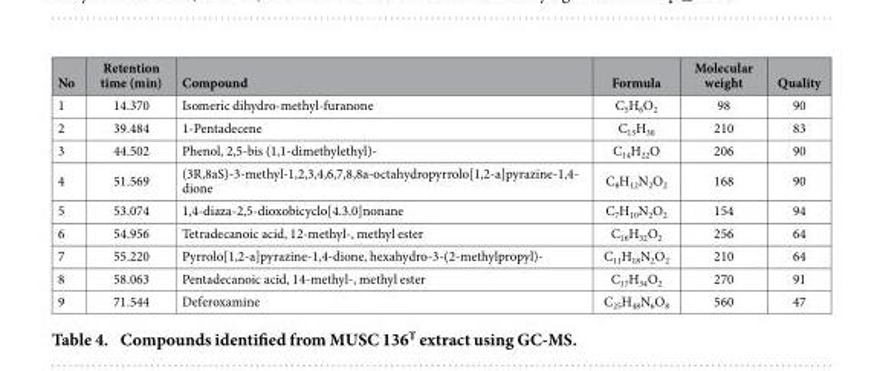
<table><thead><tr><td>No</td><td>Retention time (min)</td><td>Compound</td><td>Formula</td><td>Molecular weight</td><td>Quality</td></tr></thead><tbody><tr><td>1</td><td>14.370</td><td>Isomeric dihydro-methyl-furanone</td><td>C<sub>5</sub>H<sub>6</sub>O<sub>2</sub></td><td>98</td><td>90</td></tr><tr><td>2</td><td>39.484</td><td>1-Pentadecene</td><td>C<sub>15</sub>H<sub>30</sub></td><td>210</td><td>83</td></tr><tr><td>3</td><td>44.502</td><td>Phenol, 2,5-bis (1,1-dimethylethyl)-</td><td>C<sub>14</sub>H<sub>22</sub>O</td><td>206</td><td>90</td></tr><tr><td>4</td><td>51.569</td><td>(3R,8aS)-3-methyl-1,2,3,4,6,7,8,8a-octahydropyrrolo[1,2-a]pyrazine-1,4- dione</td><td>C<sub>8</sub>H<sub>12</sub>N<sub>2</sub>O<sub>2</sub></td><td>168</td><td>90</td></tr><tr><td>5</td><td>53.074</td><td>1,4-diaza-2,5-dioxobicyclo[4.3.0]nonane</td><td>C<sub>7</sub>H<sub>10</sub>N<sub>2</sub>O<sub>2</sub></td><td>154</td><td>94</td></tr><tr><td>6</td><td>54.956</td><td>Tetradecanoic acid, 12-methyl-, methyl ester</td><td>C<sub>16</sub>H<sub>32</sub>O<sub>2</sub></td><td>256</td><td>64</td></tr><tr><td>7</td><td>55.220</td><td>Pyrrolo[1,2-a]pyrazine-1,4-dione, hexahydro-3-(2-methylpropyl)-</td><td>C<sub>11</sub>H<sub>18</sub>N<sub>2</sub>O<sub>2</sub></td><td>210</td><td>64</td></tr><tr><td>8</td><td>58.063</td><td>Pentadecanoic acid, 14-methyl-, methyl ester</td><td>C<sub>17</sub>H<sub>34</sub>O<sub>2</sub></td><td>270</td><td>91</td></tr><tr><td>9</td><td>71.544</td><td>Deferoxamine</td><td>C<sub>25</sub>H<sub>48</sub>N<sub>6</sub>O<sub>8</sub></td><td>560</td><td>47</td></tr></tbody></table>